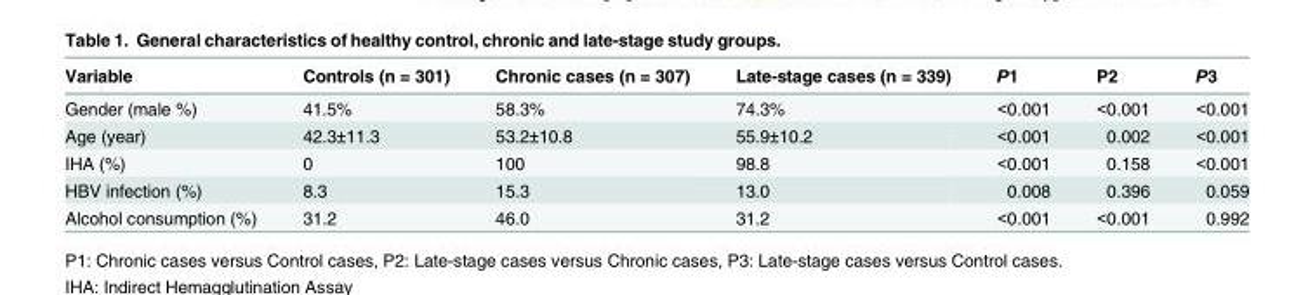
<table><thead><tr><td>Variable</td><td>Controls (n = 301)</td><td>Chronic cases (n = 307)</td><td>Late-stage cases (n = 339)</td><td>P1</td><td>P2</td><td>P3</td></tr></thead><tbody><tr><td>Gender (male %)</td><td>41.5%</td><td>58.3%</td><td>74.3%</td><td>&lt;0.001</td><td>&lt;0.001</td><td>&lt;0.001</td></tr><tr><td>Age (year)</td><td>42.3±11.3</td><td>53.2±10.8</td><td>55.9±10.2</td><td>&lt;0.001</td><td>0.002</td><td>&lt;0.001</td></tr><tr><td>IHA (%)</td><td>0</td><td>100</td><td>98.8</td><td>&lt;0.001</td><td>0.158</td><td>&lt;0.001</td></tr><tr><td>HBV infection (%)</td><td>8.3</td><td>15.3</td><td>13.0</td><td>0.008</td><td>0.396</td><td>0.059</td></tr><tr><td>Alcohol consumption (%)</td><td>31.2</td><td>46.0</td><td>31.2</td><td>&lt;0.001</td><td>&lt;0.001</td><td>0.992</td></tr></tbody></table>